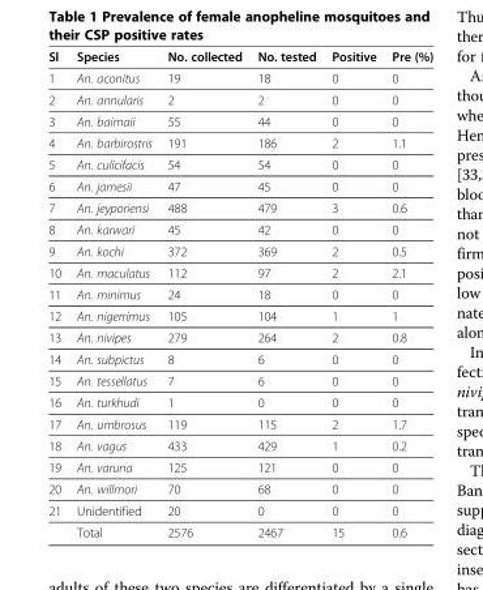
<table><thead><tr><td>Sl</td><td>Species</td><td>No. collected</td><td>No. tested</td><td>Positive</td><td>Pre (%)</td></tr></thead><tbody><tr><td>1</td><td>An. aconitus</td><td>19</td><td>18</td><td>0</td><td>0</td></tr><tr><td>2</td><td>An. annularis</td><td>2</td><td>2</td><td>0</td><td>0</td></tr><tr><td>3</td><td>An. baimaii</td><td>55</td><td>44</td><td>0</td><td>0</td></tr><tr><td>4</td><td>An. barbirostris</td><td>191</td><td>186</td><td>2</td><td>1.1</td></tr><tr><td>5</td><td>An. culicifacis</td><td>54</td><td>54</td><td>0</td><td>0</td></tr><tr><td>6</td><td>An. jamesii</td><td>47</td><td>45</td><td>0</td><td>0</td></tr><tr><td>7</td><td>An. jeyporiensi</td><td>488</td><td>479</td><td>3</td><td>0.6</td></tr><tr><td>8</td><td>An. karwari</td><td>45</td><td>42</td><td>0</td><td>0</td></tr><tr><td>9</td><td>An. kochi</td><td>372</td><td>369</td><td>2</td><td>0.5</td></tr><tr><td>10</td><td>An. maculatus</td><td>112</td><td>97</td><td>2</td><td>2.1</td></tr><tr><td>11</td><td>An. minimus</td><td>24</td><td>18</td><td>0</td><td>0</td></tr><tr><td>12</td><td>An. nigerrimus</td><td>105</td><td>104</td><td>1</td><td>1</td></tr><tr><td>13</td><td>An. nivipes</td><td>279</td><td>264</td><td>2</td><td>0.8</td></tr><tr><td>14</td><td>An. subpictus</td><td>8</td><td>6</td><td>0</td><td>0</td></tr><tr><td>15</td><td>An. tessellatus</td><td>7</td><td>6</td><td>0</td><td>0</td></tr><tr><td>16</td><td>An. turkhudi</td><td>1</td><td>0</td><td>0</td><td>0</td></tr><tr><td>17</td><td>An. umbrosus</td><td>119</td><td>115</td><td>2</td><td>1.7</td></tr><tr><td>18</td><td>An. vagus</td><td>433</td><td>429</td><td>1</td><td>0.2</td></tr><tr><td>19</td><td>An. varuna</td><td>125</td><td>121</td><td>0</td><td>0</td></tr><tr><td>20</td><td>An. willmori</td><td>70</td><td>68</td><td>0</td><td>0</td></tr><tr><td rowspan="2">21</td><td>Unidentified</td><td>20</td><td>0</td><td>0</td><td>0</td></tr><tr><td>Total</td><td>2576</td><td>2467</td><td>15</td><td>0.6</td></tr></tbody></table>